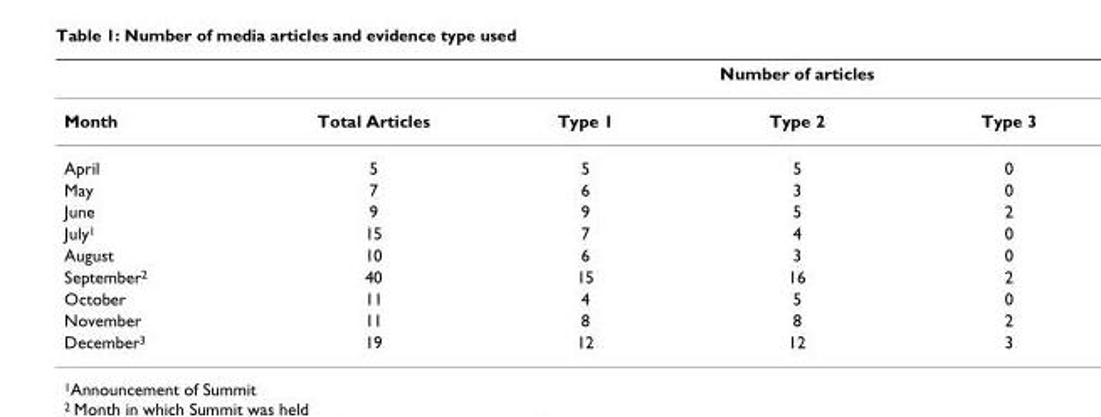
<table><thead><tr><td rowspan="2">Month</td><td rowspan="2">Total Articles</td><td colspan="3">Number of articles</td></tr><tr><td>Type 1</td><td>Type 2</td><td>Type 3</td></tr></thead><tbody><tr><td>April</td><td>5</td><td>5</td><td>5</td><td>0</td></tr><tr><td>May</td><td>7</td><td>6</td><td>3</td><td>0</td></tr><tr><td>June</td><td>9</td><td>9</td><td>5</td><td>2</td></tr><tr><td>July<sup>1</sup></td><td>15</td><td>7</td><td>4</td><td>0</td></tr><tr><td>August</td><td>10</td><td>6</td><td>3</td><td>0</td></tr><tr><td>September<sup>2</sup></td><td>40</td><td>15</td><td>16</td><td>2</td></tr><tr><td>October</td><td>11</td><td>4</td><td>5</td><td>0</td></tr><tr><td>November</td><td>11</td><td>8</td><td>8</td><td>2</td></tr><tr><td>December<sup>3</sup></td><td>19</td><td>12</td><td>12</td><td>3</td></tr></tbody></table>